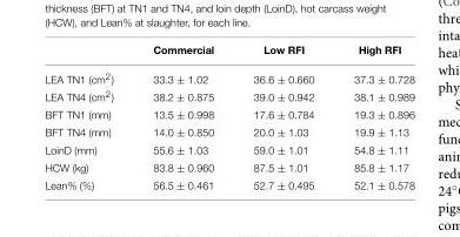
<table><thead><tr><td></td><td>Commercial</td><td>Low RFI</td><td>High RFI</td></tr></thead><tbody><tr><td>LEA TN1 (cm<sup>2</sup>)</td><td>33.3 ± 1.02</td><td>36.6 ± 0.660</td><td>37.3 ± 0.728</td></tr><tr><td>LEA TN4 (cm<sup>2</sup>)</td><td>38.2 ± 0.875</td><td>39.0 ± 0.942</td><td>38.1 ± 0.989</td></tr><tr><td>BFT TN1 (mm)</td><td>13.5 ± 0.998</td><td>17.6 ± 0.784</td><td>19.3 ± 0.896</td></tr><tr><td>BFT TN4 (mm)</td><td>14.0 ± 0.850</td><td>20.0 ± 1.03</td><td>19.9 ± 1.13</td></tr><tr><td>LoinD (mm)</td><td>55.6 ± 1.03</td><td>59.0 ± 1.01</td><td>54.8 ± 1.11</td></tr><tr><td>HCW (kg)</td><td>83.8 ± 0.960</td><td>87.5 ± 1.01</td><td>85.8 ± 1.17</td></tr><tr><td>Lean% (%)</td><td>56.5 ± 0.461</td><td>52.7 ± 0.495</td><td>52.1 ± 0.578</td></tr></tbody></table>